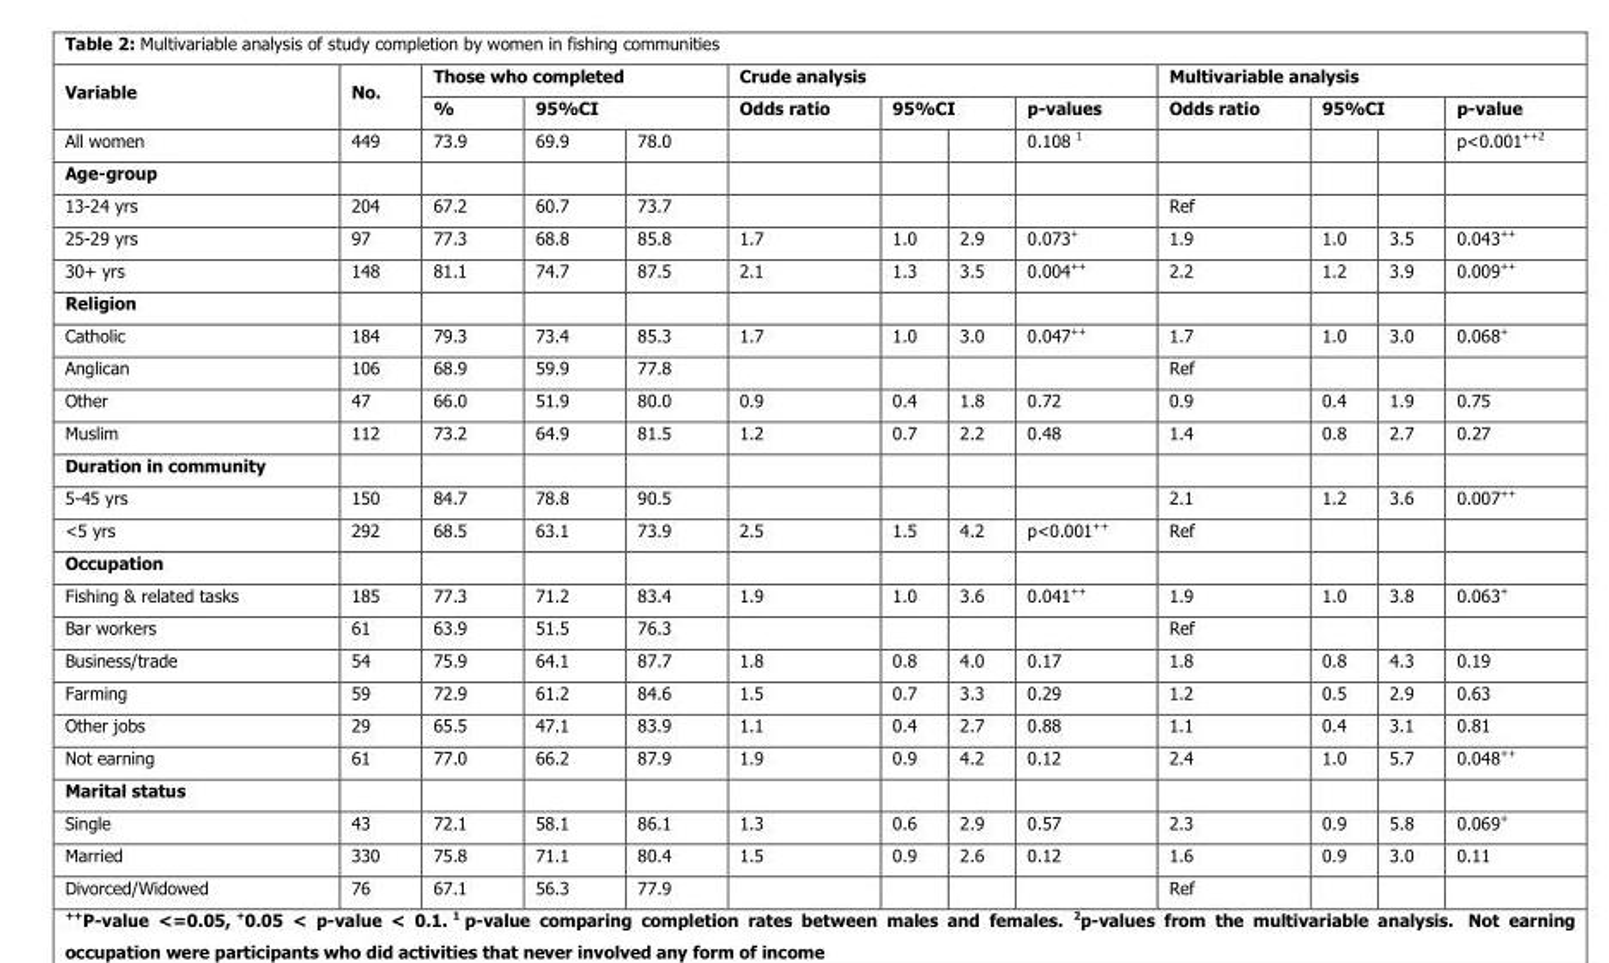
<table><thead><tr><td rowspan="3">Variable All women</td><td rowspan="3">No. 449</td><td colspan="3">Those who completed</td><td colspan="4">Crude analysis</td><td colspan="4">Multivariable analysis</td></tr><tr><td rowspan="2">% 73.9</td><td colspan="2">95%CI</td><td rowspan="2">Odds ratio</td><td colspan="2">95%CI</td><td rowspan="2">p-values 0.108 <sup>1</sup></td><td rowspan="2">Odds ratio</td><td colspan="2">95%CI</td><td rowspan="2">p-value p&lt;0.001<sup>++2</sup></td></tr><tr><td>69.9</td><td>78.0</td><td></td><td></td><td></td><td></td></tr></thead><tbody><tr><td colspan="13">Age-group</td></tr><tr><td>13-24 yrs</td><td>204</td><td>67.2</td><td>60.7</td><td>73.7</td><td></td><td></td><td></td><td></td><td>Ref</td><td></td><td></td><td></td></tr><tr><td>25-29 yrs</td><td>97</td><td>77.3</td><td>68.8</td><td>85.8</td><td>1.7</td><td>1.0</td><td>2.9</td><td>0.073<sup>+</sup></td><td>1.9</td><td>1.0</td><td>3.5</td><td>0.043<sup>++</sup></td></tr><tr><td>30+ yrs</td><td>148</td><td>81.1</td><td>74.7</td><td>87.5</td><td>2.1</td><td>1.3</td><td>3.5</td><td>0.004<sup>++</sup></td><td>2.2</td><td>1.2</td><td>3.9</td><td>0.009<sup>++</sup></td></tr><tr><td colspan="13">Religion</td></tr><tr><td>Catholic</td><td>184</td><td>79.3</td><td>73.4</td><td>85.3</td><td>1.7</td><td>1.0</td><td>3.0</td><td>0.047<sup>++</sup></td><td>1.7</td><td>1.0</td><td>3.0</td><td>0.068<sup>+</sup></td></tr><tr><td>Anglican</td><td>106</td><td>68.9</td><td>59.9</td><td>77.8</td><td></td><td></td><td></td><td></td><td>Ref</td><td></td><td></td><td></td></tr><tr><td>Other</td><td>47</td><td>66.0</td><td>51.9</td><td>80.0</td><td>0.9</td><td>0.4</td><td>1.8</td><td>0.72</td><td>0.9</td><td>0.4</td><td>1.9</td><td>0.75</td></tr><tr><td>Muslim</td><td>112</td><td>73.2</td><td>64.9</td><td>81.5</td><td>1.2</td><td>0.7</td><td>2.2</td><td>0.48</td><td>1.4</td><td>0.8</td><td>2.7</td><td>0.27</td></tr><tr><td colspan="13">Duration in community</td></tr><tr><td>5-45 yrs</td><td>150</td><td>84.7</td><td>78.8</td><td>90.5</td><td></td><td></td><td></td><td></td><td>2.1</td><td>1.2</td><td>3.6</td><td>0.007<sup>++</sup></td></tr><tr><td>&lt;5 yrs</td><td>292</td><td>68.5</td><td>63.1</td><td>73.9</td><td>2.5</td><td>1.5</td><td>4.2</td><td>p&lt;0.001<sup>++</sup></td><td>Ref</td><td></td><td></td><td></td></tr><tr><td colspan="13">Occupation</td></tr><tr><td>Fishing &amp; related tasks</td><td>185</td><td>77.3</td><td>71.2</td><td>83.4</td><td>1.9</td><td>1.0</td><td>3.6</td><td>0.041<sup>++</sup></td><td>1.9</td><td>1.0</td><td>3.8</td><td>0.063<sup>+</sup></td></tr><tr><td>Bar workers</td><td>61</td><td>63.9</td><td>51.5</td><td>76.3</td><td></td><td></td><td></td><td></td><td>Ref</td><td></td><td></td><td></td></tr><tr><td>Business/trade</td><td>54</td><td>75.9</td><td>64.1</td><td>87.7</td><td>1.8</td><td>0.8</td><td>4.0</td><td>0.17</td><td>1.8</td><td>0.8</td><td>4.3</td><td>0.19</td></tr><tr><td>Farming</td><td>59</td><td>72.9</td><td>61.2</td><td>84.6</td><td>1.5</td><td>0.7</td><td>3.3</td><td>0.29</td><td>1.2</td><td>0.5</td><td>2.9</td><td>0.63</td></tr><tr><td>Other jobs</td><td>29</td><td>65.5</td><td>47.1</td><td>83.9</td><td>1.1</td><td>0.4</td><td>2.7</td><td>0.88</td><td>1.1</td><td>0.4</td><td>3.1</td><td>0.81</td></tr><tr><td>Not earning</td><td>61</td><td>77.0</td><td>66.2</td><td>87.9</td><td>1.9</td><td>0.9</td><td>4.2</td><td>0.12</td><td>2.4</td><td>1.0</td><td>5.7</td><td>0.048<sup>++</sup></td></tr><tr><td colspan="13">Marital status</td></tr><tr><td>Single</td><td>43</td><td>72.1</td><td>58.1</td><td>86.1</td><td>1.3</td><td>0.6</td><td>2.9</td><td>0.57</td><td>2.3</td><td>0.9</td><td>5.8</td><td>0.069<sup>+</sup></td></tr><tr><td>Married</td><td>330</td><td>75.8</td><td>71.1</td><td>80.4</td><td>1.5</td><td>0.9</td><td>2.6</td><td>0.12</td><td>1.6</td><td>0.9</td><td>3.0</td><td>0.11</td></tr><tr><td>Divorced/Widowed</td><td>76</td><td>67.1</td><td>56.3</td><td>77.9</td><td></td><td></td><td></td><td></td><td>Ref</td><td></td><td></td><td></td></tr></tbody></table>